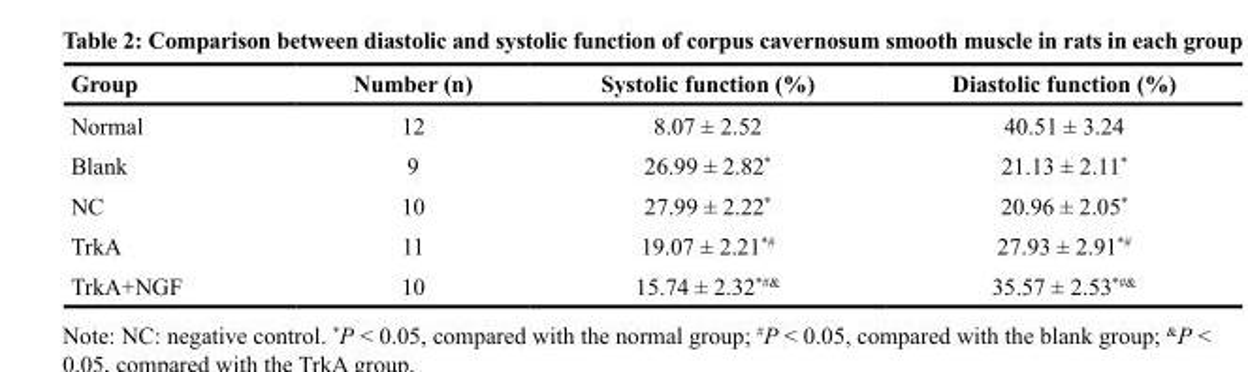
<table><thead><tr><td>Group</td><td>Number (n)</td><td>Systolic function (%)</td><td>Diastolic function (%)</td></tr></thead><tbody><tr><td>Normal</td><td>12</td><td>8.07 ± 2.52</td><td>40.51 ± 3.24</td></tr><tr><td>Blank</td><td>9</td><td>26.99 ± 2.82*</td><td>21.13 ± 2.11*</td></tr><tr><td>NC</td><td>10</td><td>27.99 ± 2.22*</td><td>20.96 ± 2.05*</td></tr><tr><td>TrkA</td><td>11</td><td>19.07 ± 2.21<sup>*#</sup></td><td>27.93 ± 2.91<sup>*#</sup></td></tr><tr><td>TrkA+NGF</td><td>10</td><td>15.74 ± 2.32<sup>*#&amp;</sup></td><td>35.57 ± 2.53<sup>*#&amp;</sup></td></tr></tbody></table>